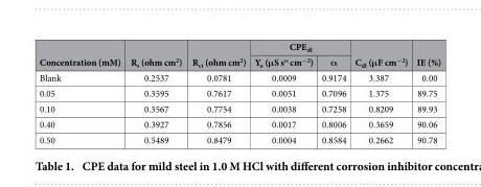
<table><thead><tr><td rowspan="2">Concentration (mM)</td><td rowspan="2">R<sub>s</sub> (ohm cm<sup>2</sup>)</td><td rowspan="2">R<sub>ct</sub> (ohm cm<sup>2</sup>)</td><td colspan="2">CPE<sub>dl</sub></td><td rowspan="2">C<sub>dl</sub> (μF cm<sup>−2</sup>)</td><td rowspan="2">IE (%)</td></tr><tr><td>Y<sub>o</sub> (μS s<sup>α</sup> cm<sup>−2</sup>)</td><td>α</td></tr></thead><tbody><tr><td>Blank</td><td>0.2537</td><td>0.0781</td><td>0.0009</td><td>0.9174</td><td>3.387</td><td>0.00</td></tr><tr><td>0.05</td><td>0.3595</td><td>0.7617</td><td>0.0051</td><td>0.7096</td><td>1.375</td><td>89.75</td></tr><tr><td>0.10</td><td>0.3567</td><td>0.7754</td><td>0.0038</td><td>0.7258</td><td>0.8209</td><td>89.93</td></tr><tr><td>0.40</td><td>0.3927</td><td>0.7856</td><td>0.0017</td><td>0.8006</td><td>0.3659</td><td>90.06</td></tr><tr><td>0.50</td><td>0.5489</td><td>0.8479</td><td>0.0004</td><td>0.8584</td><td>0.2662</td><td>90.78</td></tr></tbody></table>